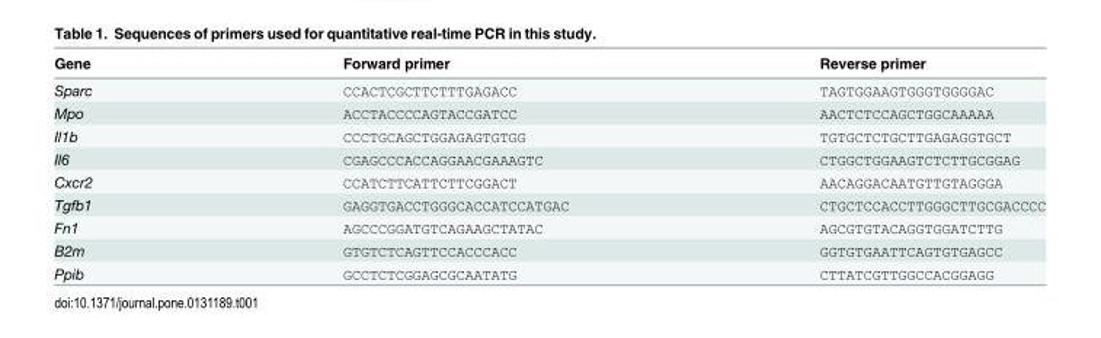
<table><thead><tr><td>Gene</td><td>Forward primer</td><td>Reverse primer</td></tr></thead><tbody><tr><td>Sparc</td><td>CCACTCGCTTCTTTGAGACC</td><td>TAGTGGAAGTGGGTGGGGAC</td></tr><tr><td>Mpo</td><td>ACCTACCCCAGTACCGATCC</td><td>AACTCTCCAGCTGGCAAAAA</td></tr><tr><td>Il1b</td><td>CCCTGCAGCTGGAGAGTGTGG</td><td>TGTGCTCTGCTTGAGAGGTGCT</td></tr><tr><td>Il6</td><td>CGAGCCCACCAGGAACGAAAGTC</td><td>CTGGCTGGAAGTCTCTTGCGGAG</td></tr><tr><td>Cxcr2</td><td>CCATCTTCATTCTTCGGACT</td><td>AACAGGACAATGTTGTAGGGA</td></tr><tr><td>Tgfb1</td><td>GAGGTGACCTGGGCACCATCCATGAC</td><td>CTGCTCCACCTTGGGCTTGCGACCCC</td></tr><tr><td>Fn1</td><td>AGCCCGGATGTCAGAAGCTATAC</td><td>AGCGTGTACAGGTGGATCTTG</td></tr><tr><td>B2m</td><td>GTGTCTCAGTTCCACCCACC</td><td>GGTGTGAATTCAGTGTGAGCC</td></tr><tr><td>Ppib</td><td>GCCTCTCGGAGCGCAATATG</td><td>CTTATCGTTGGCCACGGAGG</td></tr></tbody></table>